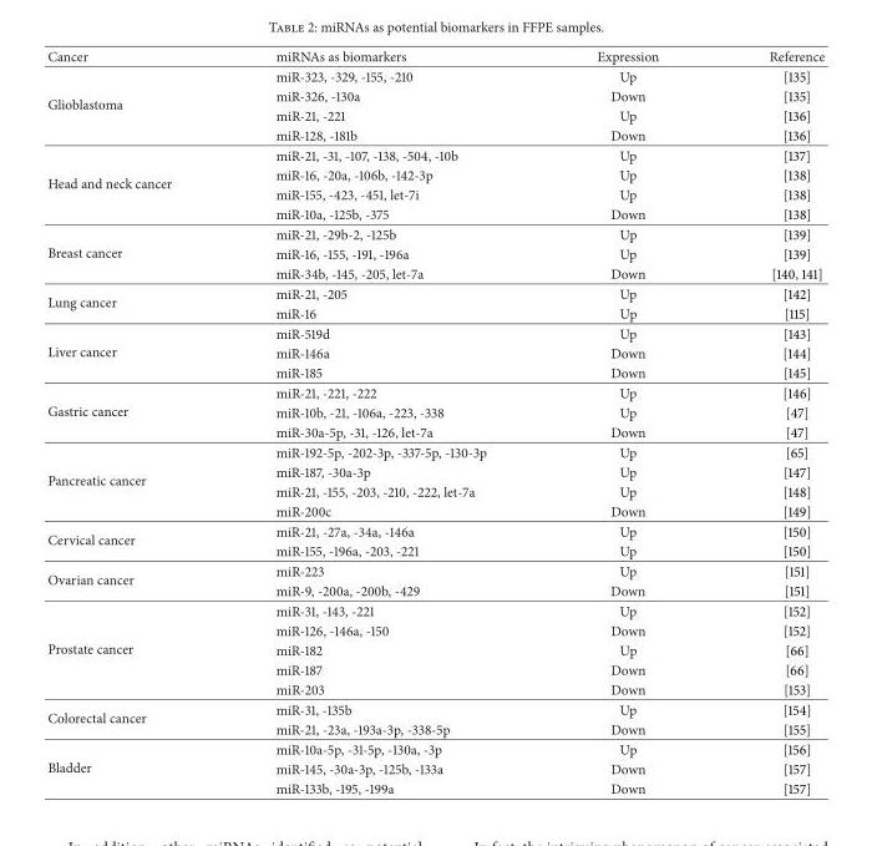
<table><thead><tr><td>Cancer</td><td>miRNAs as biomarkers</td><td>Expression</td><td>Reference</td></tr></thead><tbody><tr><td rowspan="4">Glioblastoma</td><td>miR-323, -329, -155, -210</td><td>Up</td><td>[135]</td></tr><tr><td>miR-326, -130a</td><td>Down</td><td>[135]</td></tr><tr><td>miR-21, -221</td><td>Up</td><td>[136]</td></tr><tr><td>miR-128, -181b</td><td>Down</td><td>[136]</td></tr><tr><td rowspan="4">Head and neck cancer</td><td>miR-21, -31, -107, -138, -504, -10b</td><td>Up</td><td>[137]</td></tr><tr><td>miR-16, -20a, -106b, -142-3p</td><td>Up</td><td>[138]</td></tr><tr><td>miR-155, -423, -451, let-7i</td><td>Up</td><td>[138]</td></tr><tr><td>miR-10a, -125b, -375</td><td>Down</td><td>[138]</td></tr><tr><td rowspan="3">Breast cancer</td><td>miR-21, -29b-2, -125b</td><td>Up</td><td>[139]</td></tr><tr><td>miR-16, -155, -191, -196a</td><td>Up</td><td>[139]</td></tr><tr><td>miR-34b, -145, -205, let-7a</td><td>Down</td><td>[140, 141]</td></tr><tr><td rowspan="2">Lung cancer</td><td>miR-21, -205</td><td>Up</td><td>[142]</td></tr><tr><td>miR-16</td><td>Up</td><td>[115]</td></tr><tr><td rowspan="3">Liver cancer</td><td>miR-519d</td><td>Up</td><td>[143]</td></tr><tr><td>miR-146a</td><td>Down</td><td>[144]</td></tr><tr><td>miR-185</td><td>Down</td><td>[145]</td></tr><tr><td rowspan="3">Gastric cancer</td><td>miR-21, -221, -222</td><td>Up</td><td>[146]</td></tr><tr><td>miR-10b, -21, -106a, -223, -338</td><td>Up</td><td>[47]</td></tr><tr><td>miR-30a-5p, -31, -126, let-7a</td><td>Down</td><td>[47]</td></tr><tr><td rowspan="4">Pancreatic cancer</td><td>miR-192-5p, -202-3p, -337-5p, -130-3p</td><td>Up</td><td>[65]</td></tr><tr><td>miR-187, -30a-3p</td><td>Up</td><td>[147]</td></tr><tr><td>miR-21, -155, -203, -210, -222, let-7a</td><td>Up</td><td>[148]</td></tr><tr><td>miR-200c</td><td>Down</td><td>[149]</td></tr><tr><td rowspan="2">Cervical cancer</td><td>miR-21, -27a, -34a, -146a</td><td>Up</td><td>[150]</td></tr><tr><td>miR-155, -196a, -203, -221</td><td>Up</td><td>[150]</td></tr><tr><td rowspan="2">Ovarian cancer</td><td>miR-223</td><td>Up</td><td>[151]</td></tr><tr><td>miR-9, -200a, -200b, -429</td><td>Down</td><td>[151]</td></tr><tr><td rowspan="5">Prostate cancer</td><td>miR-31, -143, -221</td><td>Up</td><td>[152]</td></tr><tr><td>miR-126, -146a, -150</td><td>Down</td><td>[152]</td></tr><tr><td>miR-182</td><td>Up</td><td>[66]</td></tr><tr><td>miR-187</td><td>Down</td><td>[66]</td></tr><tr><td>miR-203</td><td>Down</td><td>[153]</td></tr><tr><td rowspan="2">Colorectal cancer</td><td>miR-31, -135b</td><td>Up</td><td>[154]</td></tr><tr><td>miR-21, -23a, -193a-3p, -338-5p</td><td>Down</td><td>[155]</td></tr><tr><td rowspan="3">Bladder</td><td>miR-10a-5p, -31-5p, -130a, -3p</td><td>Up</td><td>[156]</td></tr><tr><td>miR-145, -30a-3p, -125b, -133a</td><td>Down</td><td>[157]</td></tr><tr><td>miR-133b, -195, -199a</td><td>Down</td><td>[157]</td></tr></tbody></table>